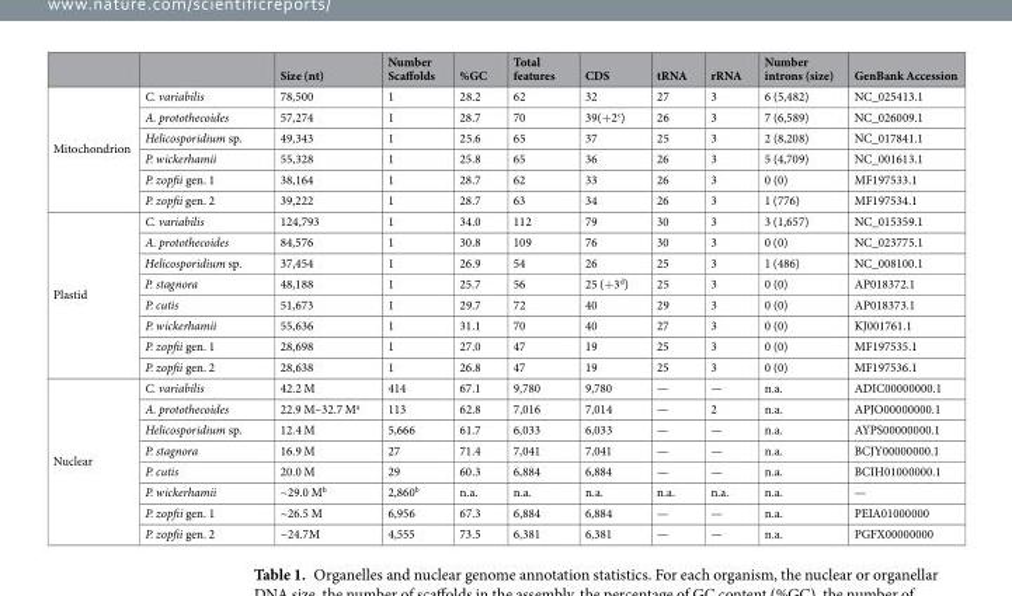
<table><thead><tr><td></td><td></td><td>Size (nt)</td><td>Number Scaffolds</td><td>%GC</td><td>Total features</td><td>CDS</td><td>tRNA</td><td>rRNA</td><td>Number introns (size)</td><td>GenBank Accession</td></tr></thead><tbody><tr><td rowspan="6">Mitochondrion</td><td>C. variabilis</td><td>78,500</td><td>1</td><td>28.2</td><td>62</td><td>32</td><td>27</td><td>3</td><td>6 (5,482)</td><td>NC_025413.1</td></tr><tr><td>A. protothecoides</td><td>57,274</td><td>1</td><td>28.7</td><td>70</td><td>39(+2<sup>c</sup>)</td><td>26</td><td>3</td><td>7 (6,589)</td><td>NC_026009.1</td></tr><tr><td>Helicosporidium sp.</td><td>49,343</td><td>1</td><td>25.6</td><td>65</td><td>37</td><td>25</td><td>3</td><td>2 (8,208)</td><td>NC_017841.1</td></tr><tr><td>P. wickerhamii</td><td>55,328</td><td>1</td><td>25.8</td><td>65</td><td>36</td><td>26</td><td>3</td><td>5 (4,709)</td><td>NC_001613.1</td></tr><tr><td>P. zopfii gen. 1</td><td>38,164</td><td>1</td><td>28.7</td><td>62</td><td>33</td><td>26</td><td>3</td><td>0 (0)</td><td>MF197533.1</td></tr><tr><td>P. zopfii gen. 2</td><td>39,222</td><td>1</td><td>28.7</td><td>63</td><td>34</td><td>26</td><td>3</td><td>1 (776)</td><td>MF197534.1</td></tr><tr><td rowspan="8">Plastid</td><td>C. variabilis</td><td>124,793</td><td>1</td><td>34.0</td><td>112</td><td>79</td><td>30</td><td>3</td><td>3 (1,657)</td><td>NC_015359.1</td></tr><tr><td>A. protothecoides</td><td>84,576</td><td>1</td><td>30.8</td><td>109</td><td>76</td><td>30</td><td>3</td><td>0 (0)</td><td>NC_023775.1</td></tr><tr><td>Helicosporidium sp.</td><td>37,454</td><td>1</td><td>26.9</td><td>54</td><td>26</td><td>25</td><td>3</td><td>1 (486)</td><td>NC_008100.1</td></tr><tr><td>P. stagnora</td><td>48,188</td><td>1</td><td>25.7</td><td>56</td><td>25 (+3<sup>d</sup>)</td><td>25</td><td>3</td><td>0 (0)</td><td>AP018372.1</td></tr><tr><td>P. cutis</td><td>51,673</td><td>1</td><td>29.7</td><td>72</td><td>40</td><td>29</td><td>3</td><td>0 (0)</td><td>AP018373.1</td></tr><tr><td>P. wickerhamii</td><td>55,636</td><td>1</td><td>31.1</td><td>70</td><td>40</td><td>27</td><td>3</td><td>0 (0)</td><td>KJ001761.1</td></tr><tr><td>P. zopfii gen. 1</td><td>28,698</td><td>1</td><td>27.0</td><td>47</td><td>19</td><td>25</td><td>3</td><td>0 (0)</td><td>MF197535.1</td></tr><tr><td>P. zopfii gen. 2</td><td>28,638</td><td>1</td><td>26.8</td><td>47</td><td>19</td><td>25</td><td>3</td><td>0 (0)</td><td>MF197536.1</td></tr><tr><td rowspan="8">Nuclear</td><td>C. variabilis</td><td>42.2 M</td><td>414</td><td>67.1</td><td>9,780</td><td>9,780</td><td>—</td><td>—</td><td>n.a.</td><td>ADIC00000000.1</td></tr><tr><td>A. protothecoides</td><td>22.9 M–32.7 M<sup>a</sup></td><td>113</td><td>62.8</td><td>7,016</td><td>7,014</td><td>—</td><td>2</td><td>n.a.</td><td>APJO00000000.1</td></tr><tr><td>Helicosporidium sp.</td><td>12.4 M</td><td>5,666</td><td>61.7</td><td>6,033</td><td>6,033</td><td>—</td><td>—</td><td>n.a.</td><td>AYPS00000000.1</td></tr><tr><td>P. stagnora</td><td>16.9 M</td><td>27</td><td>71.4</td><td>7,041</td><td>7,041</td><td>—</td><td>—</td><td>n.a.</td><td>BCJY00000000.1</td></tr><tr><td>P. cutis</td><td>20.0 M</td><td>29</td><td>60.3</td><td>6,884</td><td>6,884</td><td>—</td><td>—</td><td>n.a.</td><td>BCIH01000000.1</td></tr><tr><td>P. wickerhamii</td><td>~29.0 M<sup>b</sup></td><td>2,860<sup>b</sup></td><td>n.a.</td><td>n.a.</td><td>n.a.</td><td>n.a.</td><td>n.a.</td><td>n.a.</td><td>—</td></tr><tr><td>P. zopfii gen. 1</td><td>~26.5 M</td><td>6,956</td><td>67.3</td><td>6,884</td><td>6,884</td><td>—</td><td>—</td><td>n.a.</td><td>PEIA01000000</td></tr><tr><td>P. zopfii gen. 2</td><td>~24.7M</td><td>4,555</td><td>73.5</td><td>6,381</td><td>6,381</td><td>—</td><td>—</td><td>n.a.</td><td>PGFX00000000</td></tr></tbody></table>